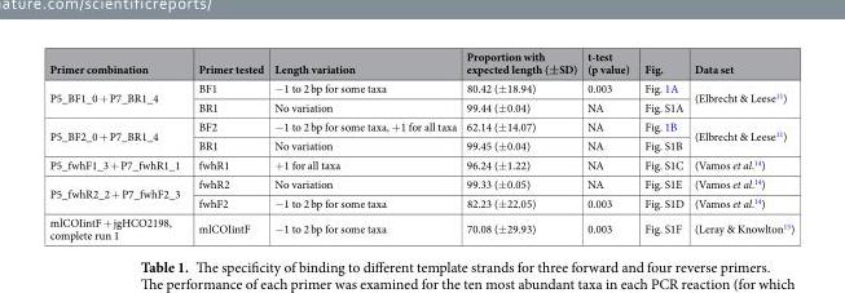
<table><thead><tr><td>Primer combination</td><td>Primer tested</td><td>Length variation</td><td>Proportion with expected length (±SD)</td><td>t-test (p value)</td><td>Fig.</td><td>Data set</td></tr></thead><tbody><tr><td rowspan="2">P5_BF1_0 + P7_BR1_4</td><td>BF1</td><td>−1 to 2 bp for some taxa</td><td>80.42 (±18.94)</td><td>0.003</td><td>Fig. 1A</td><td rowspan="2">(Elbrecht &amp; Leese<sup>11</sup>)</td></tr><tr><td>BR1</td><td>No variation</td><td>99.44 (±0.04)</td><td>NA</td><td>Fig. S1A</td></tr><tr><td rowspan="2">P5_BF2_0 + P7_BR1_4</td><td>BF2</td><td>−1 to 2 bp for some taxa, +1 for all taxa</td><td>62.14 (±14.07)</td><td>NA</td><td>Fig. 1B</td><td rowspan="2">(Elbrecht &amp; Leese<sup>11</sup>)</td></tr><tr><td>BR1</td><td>No variation</td><td>99.45 (±0.04)</td><td>NA</td><td>Fig. S1B</td></tr><tr><td>P5_fwhF1_3 + P7_fwhR1_1</td><td>fwhR1</td><td>+1 for all taxa</td><td>96.24 (±1.22)</td><td>NA</td><td>Fig. S1C</td><td>(Vamos et al.<sup>14</sup>)</td></tr><tr><td rowspan="2">P5_fwhR2_2 + P7_fwhF2_3</td><td>fwhR2</td><td>No variation</td><td>99.33 (±0.05)</td><td>NA</td><td>Fig. S1E</td><td>(Vamos et al.<sup>14</sup>)</td></tr><tr><td>fwhF2</td><td>−1 to 2 bp for some taxa</td><td>82.23 (±22.05)</td><td>0.003</td><td>Fig. S1D</td><td>(Vamos et al.<sup>14</sup>)</td></tr><tr><td>mlCOIintF + jgHCO2198, complete run 1</td><td>mlCOIintF</td><td>−1 to 2 bp for some taxa</td><td>70.08 (±29.93)</td><td>0.003</td><td>Fig. S1F</td><td>(Leray &amp; Knowlton<sup>15</sup>)</td></tr></tbody></table>